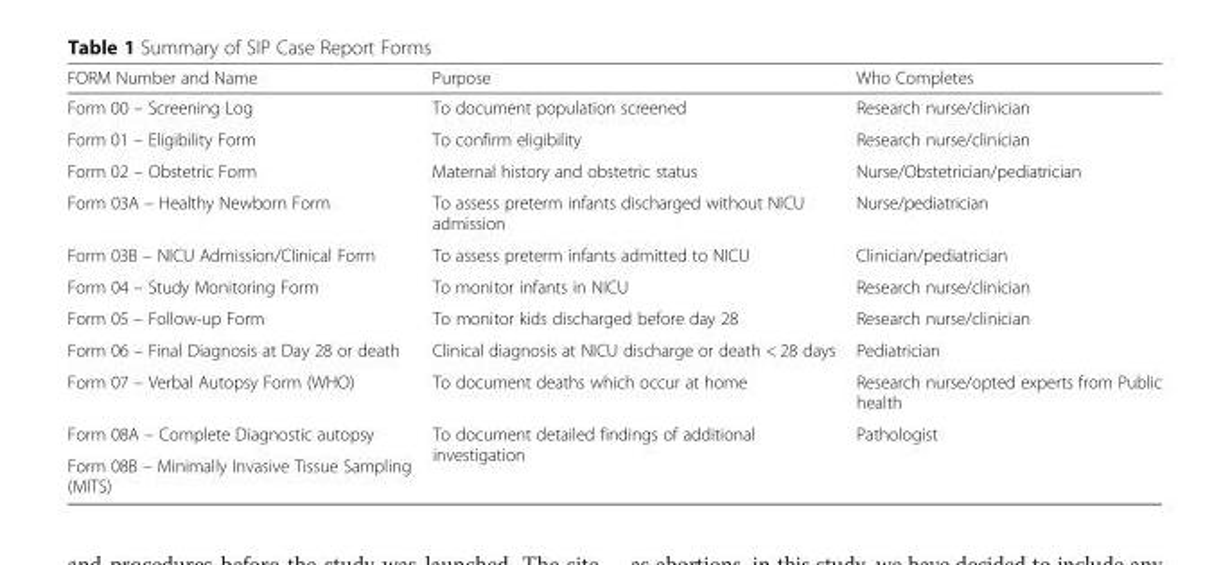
<table><thead><tr><td>FORM Number and Name</td><td>Purpose</td><td>Who Completes</td></tr></thead><tbody><tr><td>Form 00 – Screening Log</td><td>To document population screened</td><td>Research nurse/clinician</td></tr><tr><td>Form 01 – Eligibility Form</td><td>To confirm eligibility</td><td>Research nurse/clinician</td></tr><tr><td>Form 02 – Obstetric Form</td><td>Maternal history and obstetric status</td><td>Nurse/Obstetrician/pediatrician</td></tr><tr><td>Form 03A – Healthy Newborn Form</td><td>To assess preterm infants discharged without NICU admission</td><td>Nurse/pediatrician</td></tr><tr><td>Form 03B – NICU Admission/Clinical Form</td><td>To assess preterm infants admitted to NICU</td><td>Clinician/pediatrician</td></tr><tr><td>Form 04 – Study Monitoring Form</td><td>To monitor infants in NICU</td><td>Research nurse/clinician</td></tr><tr><td>Form 05 – Follow-up Form</td><td>To monitor kids discharged before day 28</td><td>Research nurse/clinician</td></tr><tr><td>Form 06 – Final Diagnosis at Day 28 or death</td><td>Clinical diagnosis at NICU discharge or death &lt; 28 days</td><td>Pediatrician</td></tr><tr><td>Form 07 – Verbal Autopsy Form (WHO)</td><td>To document deaths which occur at home</td><td>Research nurse/opted experts from Public health</td></tr><tr><td>Form 08A – Complete Diagnostic autopsy</td><td rowspan="2">To document detailed findings of additional investigation</td><td rowspan="2">Pathologist</td></tr><tr><td>Form 08B – Minimally Invasive Tissue Sampling (MITS)</td></tr></tbody></table>